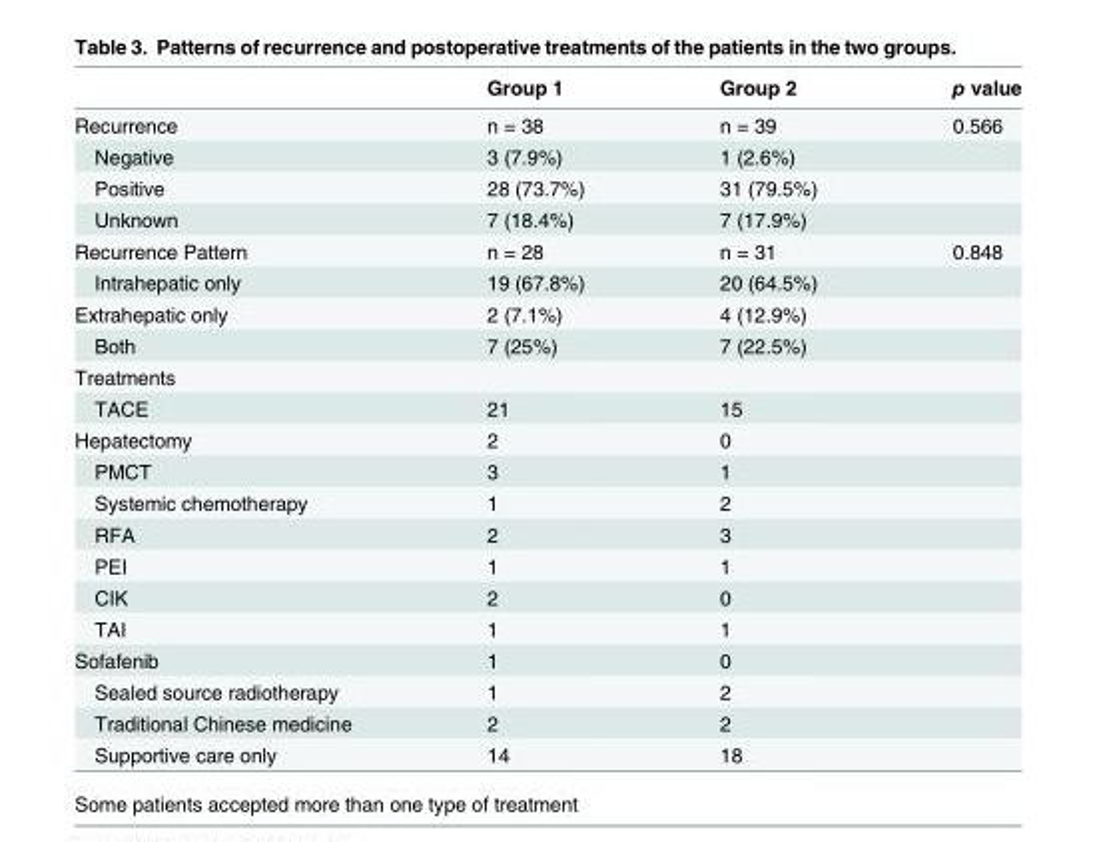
<table><thead><tr><td></td><td>Group 1</td><td>Group 2</td><td>p value</td></tr></thead><tbody><tr><td>Recurrence</td><td>n = 38</td><td>n = 39</td><td>0.566</td></tr><tr><td>Negative</td><td>3 (7.9%)</td><td>1 (2.6%)</td><td></td></tr><tr><td>Positive</td><td>28 (73.7%)</td><td>31 (79.5%)</td><td></td></tr><tr><td>Unknown</td><td>7 (18.4%)</td><td>7 (17.9%)</td><td></td></tr><tr><td>Recurrence Pattern</td><td>n = 28</td><td>n = 31</td><td>0.848</td></tr><tr><td>Intrahepatic only</td><td>19 (67.8%)</td><td>20 (64.5%)</td><td></td></tr><tr><td>Extrahepatic only</td><td>2 (7.1%)</td><td>4 (12.9%)</td><td></td></tr><tr><td>Both</td><td>7 (25%)</td><td>7 (22.5%)</td><td></td></tr><tr><td colspan="4">Treatments</td></tr><tr><td>TACE</td><td>21</td><td>15</td><td></td></tr><tr><td>Hepatectomy</td><td>2</td><td>0</td><td></td></tr><tr><td>PMCT</td><td>3</td><td>1</td><td></td></tr><tr><td>Systemic chemotherapy</td><td>1</td><td>2</td><td></td></tr><tr><td>RFA</td><td>2</td><td>3</td><td></td></tr><tr><td>PEI</td><td>1</td><td>1</td><td></td></tr><tr><td>CIK</td><td>2</td><td>0</td><td></td></tr><tr><td>TAI</td><td>1</td><td>1</td><td></td></tr><tr><td>Sofafenib</td><td>1</td><td>0</td><td></td></tr><tr><td>Sealed source radiotherapy</td><td>1</td><td>2</td><td></td></tr><tr><td>Traditional Chinese medicine</td><td>2</td><td>2</td><td></td></tr><tr><td>Supportive care only</td><td>14</td><td>18</td><td></td></tr></tbody></table>